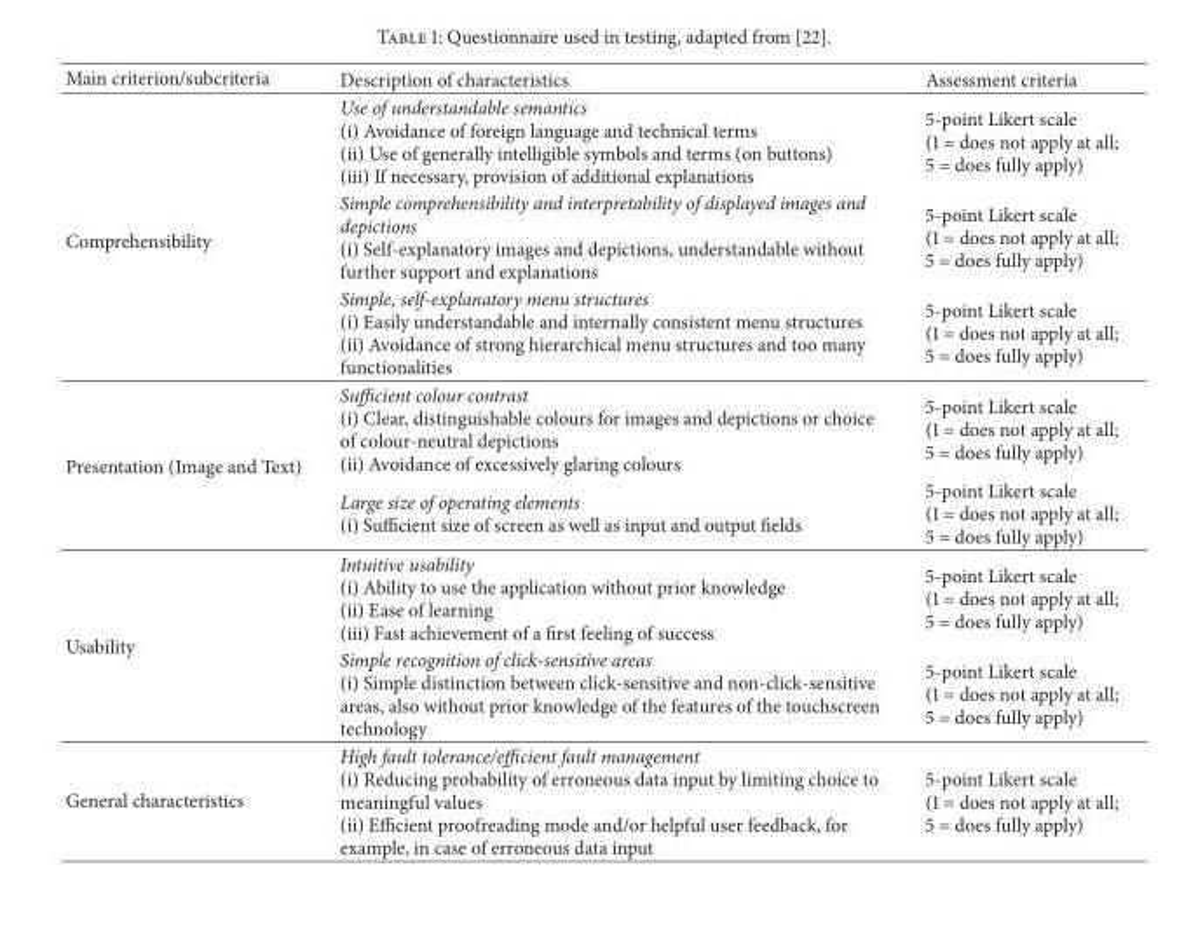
<table><thead><tr><td>Main criterion/subcriteria</td><td>Description of characteristics</td><td>Assessment criteria</td></tr></thead><tbody><tr><td rowspan="3">Comprehensibility</td><td>Use of understandable semantics (i) Avoidance of foreign language and technical terms (ii) Use of generally intelligible symbols and terms (on buttons) (iii) If necessary, provision of additional explanations</td><td>5-point Likert scale (1 = does not apply at all; 5 = does fully apply)</td></tr><tr><td>Simple comprehensibility and interpretability of displayed images and depictions (i) Self-explanatory images and depictions, understandable without further support and explanations</td><td>5-point Likert scale (1 = does not apply at all; 5 = does fully apply)</td></tr><tr><td>Simple, self-explanatory menu structures (i) Easily understandable and internally consistent menu structures (ii) Avoidance of strong hierarchical menu structures and too many functionalities</td><td>5-point Likert scale (1 = does not apply at all; 5 = does fully apply)</td></tr><tr><td rowspan="2">Presentation (Image and Text)</td><td>Sufficient colour contrast (i) Clear, distinguishable colours for images and depictions or choice of colour-neutral depictions (ii) Avoidance of excessively glaring colours</td><td>5-point Likert scale (1 = does not apply at all; 5 = does fully apply)</td></tr><tr><td>Large size of operating elements (i) Sufficient size of screen as well as input and output fields</td><td>5-point Likert scale (1 = does not apply at all; 5 = does fully apply)</td></tr><tr><td rowspan="2">Usability</td><td>Intuitive usability (i) Ability to use the application without prior knowledge (ii) Ease of learning (iii) Fast achievement of a first feeling of success</td><td>5-point Likert scale (1 = does not apply at all; 5 = does fully apply)</td></tr><tr><td>Simple recognition of click-sensitive areas (i) Simple distinction between click-sensitive and non-click-sensitive areas, also without prior knowledge of the features of the touchscreen technology</td><td>5-point Likert scale (1 = does not apply at all; 5 = does fully apply)</td></tr><tr><td>General characteristics</td><td>High fault tolerance/efficient fault management (i) Reducing probability of erroneous data input by limiting choice to meaningful values (ii) Efficient proofreading mode and/or helpful user feedback, for example, in case of erroneous data input</td><td>5-point Likert scale (1 = does not apply at all; 5 = does fully apply)</td></tr></tbody></table>